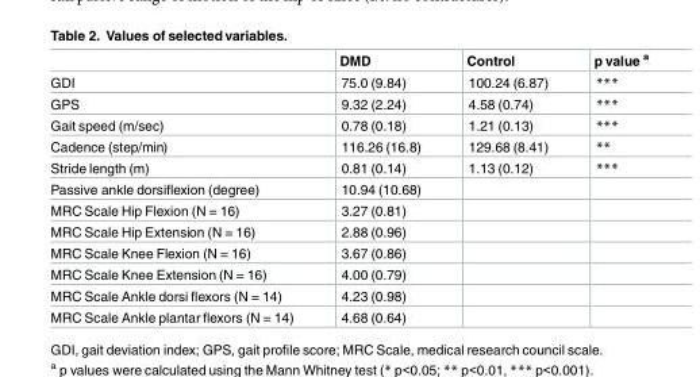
<table><thead><tr><td></td><td>DMD</td><td>Control</td><td>p value <sup>a</sup></td></tr></thead><tbody><tr><td>GDI</td><td>75.0 (9.84)</td><td>100.24 (6.87)</td><td>***</td></tr><tr><td>GPS</td><td>9.32 (2.24)</td><td>4.58 (0.74)</td><td>***</td></tr><tr><td>Gait speed (m/sec)</td><td>0.78 (0.18)</td><td>1.21 (0.13)</td><td>***</td></tr><tr><td>Cadence (step/min)</td><td>116.26 (16.8)</td><td>129.68 (8.41)</td><td>**</td></tr><tr><td>Stride length (m)</td><td>0.81 (0.14)</td><td>1.13 (0.12)</td><td>***</td></tr><tr><td>Passive ankle dorsiflexion (degree)</td><td>10.94 (10.68)</td><td></td><td></td></tr><tr><td>MRC Scale Hip Flexion (N = 16)</td><td>3.27 (0.81)</td><td></td><td></td></tr><tr><td>MRC Scale Hip Extension (N = 16)</td><td>2.88 (0.96)</td><td></td><td></td></tr><tr><td>MRC Scale Knee Flexion (N = 16)</td><td>3.67 (0.86)</td><td></td><td></td></tr><tr><td>MRC Scale Knee Extension (N = 16)</td><td>4.00 (0.79)</td><td></td><td></td></tr><tr><td>MRC Scale Ankle dorsi flexors (N = 14)</td><td>4.23 (0.98)</td><td></td><td></td></tr><tr><td>MRC Scale Ankle plantar flexors (N = 14)</td><td>4.68 (0.64)</td><td></td><td></td></tr></tbody></table>